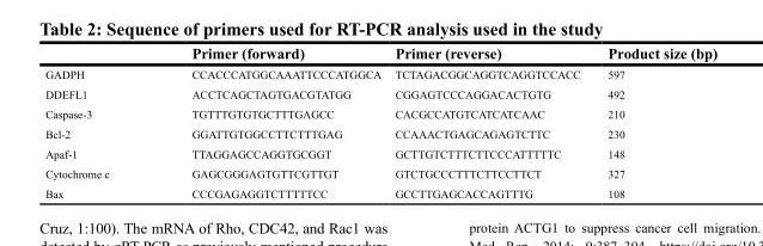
<table><thead><tr><td></td><td>Primer (forward)</td><td>Primer (reverse)</td><td>Product size (bp)</td></tr></thead><tbody><tr><td>GADPH</td><td>CCACCCATGGCAAATTCCCATGGCA</td><td>TCTAGACGGCAGGTCAGGTCCACC</td><td>597</td></tr><tr><td>DDEFL1</td><td>ACCTCAGCTAGTGACGTATGG</td><td>CGGAGTCCCAGGACACTGTG</td><td>492</td></tr><tr><td>Caspase-3</td><td>TGTTTGTGTGCTTTGAGCC</td><td>CACGCCATGTCATCATCAAC</td><td>210</td></tr><tr><td>Bcl-2</td><td>GGATTGTGGCCTTCTTTGAG</td><td>CCAAACTGAGCAGAGTCTTC</td><td>230</td></tr><tr><td>Apaf-1</td><td>TTAGGAGCCAGGTGCGGT</td><td>GCTTGTCTTTCTTCCCATTTTTC</td><td>148</td></tr><tr><td>Cytochrome c</td><td>GAGCGGGAGTGTTCGTTGT</td><td>GTCTGCCCTTTCTTCCTTCT</td><td>327</td></tr><tr><td>Bax</td><td>CCCGAGAGGTCTTTTTCC</td><td>GCCTTGAGCACCAGTTTG</td><td>108</td></tr></tbody></table>